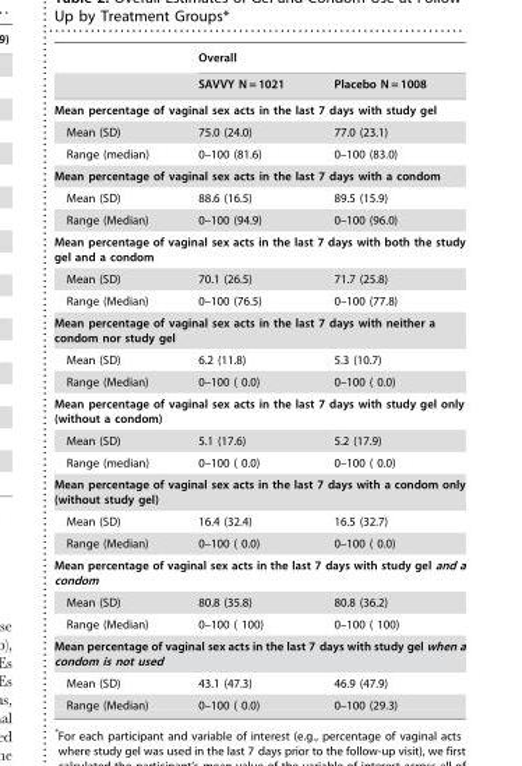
<table><thead><tr><td rowspan="2"></td><td colspan="2">Overall</td></tr><tr><td>SAVVY N = 1021</td><td>Placebo N = 1008</td></tr></thead><tbody><tr><td colspan="3">Mean percentage of vaginal sex acts in the last 7 days with study gel</td></tr><tr><td>Mean (SD)</td><td>75.0 (24.0)</td><td>77.0 (23.1)</td></tr><tr><td>Range (median)</td><td>0–100 (81.6)</td><td>0–100 (83.0)</td></tr><tr><td colspan="3">Mean percentage of vaginal sex acts in the last 7 days with a condom</td></tr><tr><td>Mean (SD)</td><td>88.6 (16.5)</td><td>89.5 (15.9)</td></tr><tr><td>Range (Median)</td><td>0–100 (94.9)</td><td>0–100 (96.0)</td></tr><tr><td colspan="3">Mean percentage of vaginal sex acts in the last 7 days with both the study gel and a condom</td></tr><tr><td>Mean (SD)</td><td>70.1 (26.5)</td><td>71.7 (25.8)</td></tr><tr><td>Range (Median)</td><td>0–100 (76.5)</td><td>0–100 (77.8)</td></tr><tr><td colspan="3">Mean percentage of vaginal sex acts in the last 7 days with neither a condom nor study gel</td></tr><tr><td>Mean (SD)</td><td>6.2 (11.8)</td><td>5.3 (10.7)</td></tr><tr><td>Range (Median)</td><td>0–100 ( 0.0)</td><td>0–100 ( 0.0)</td></tr><tr><td colspan="3">Mean percentage of vaginal sex acts in the last 7 days with study gel only (without a condom)</td></tr><tr><td>Mean (SD)</td><td>5.1 (17.6)</td><td>5.2 (17.9)</td></tr><tr><td>Range (median)</td><td>0–100 ( 0.0)</td><td>0–100 ( 0.0)</td></tr><tr><td colspan="3">Mean percentage of vaginal sex acts in the last 7 days with a condom only (without study gel)</td></tr><tr><td>Mean (SD)</td><td>16.4 (32.4)</td><td>16.5 (32.7)</td></tr><tr><td>Range (Median)</td><td>0–100 ( 0.0)</td><td>0–100 ( 0.0)</td></tr><tr><td colspan="3">Mean percentage of vaginal sex acts in the last 7 days with study gel and a condom</td></tr><tr><td>Mean (SD)</td><td>80.8 (35.8)</td><td>80.8 (36.2)</td></tr><tr><td>Range (Median)</td><td>0–100 ( 100)</td><td>0–100 ( 100)</td></tr><tr><td colspan="3">Mean percentage of vaginal sex acts in the last 7 days with study gel when a condom is not used</td></tr><tr><td>Mean (SD)</td><td>43.1 (47.3)</td><td>46.9 (47.9)</td></tr><tr><td>Range (Median)</td><td>0–100 ( 0.0)</td><td>0–100 (29.3)</td></tr></tbody></table>